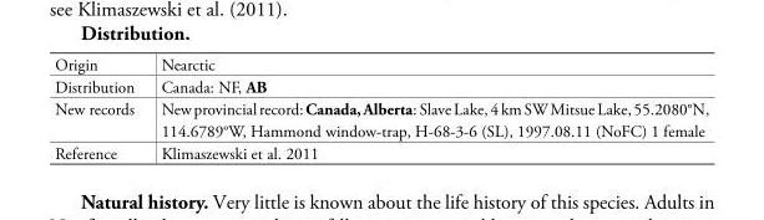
<table><tbody><tr><td>Origin</td><td>Nearctic</td></tr><tr><td>Distribution</td><td>Canada: NF, AB</td></tr><tr><td>New records</td><td>New provincial record: Canada, Alberta: Slave Lake, 4 km SW Mitsue Lake, 55.2080°N, 114.6789°W, Hammond window-trap, H-68-3-6 (SL), 1997.08.11 (NoFC) 1 female</td></tr><tr><td>Reference</td><td>Klimaszewski et al. 2011</td></tr></tbody></table>